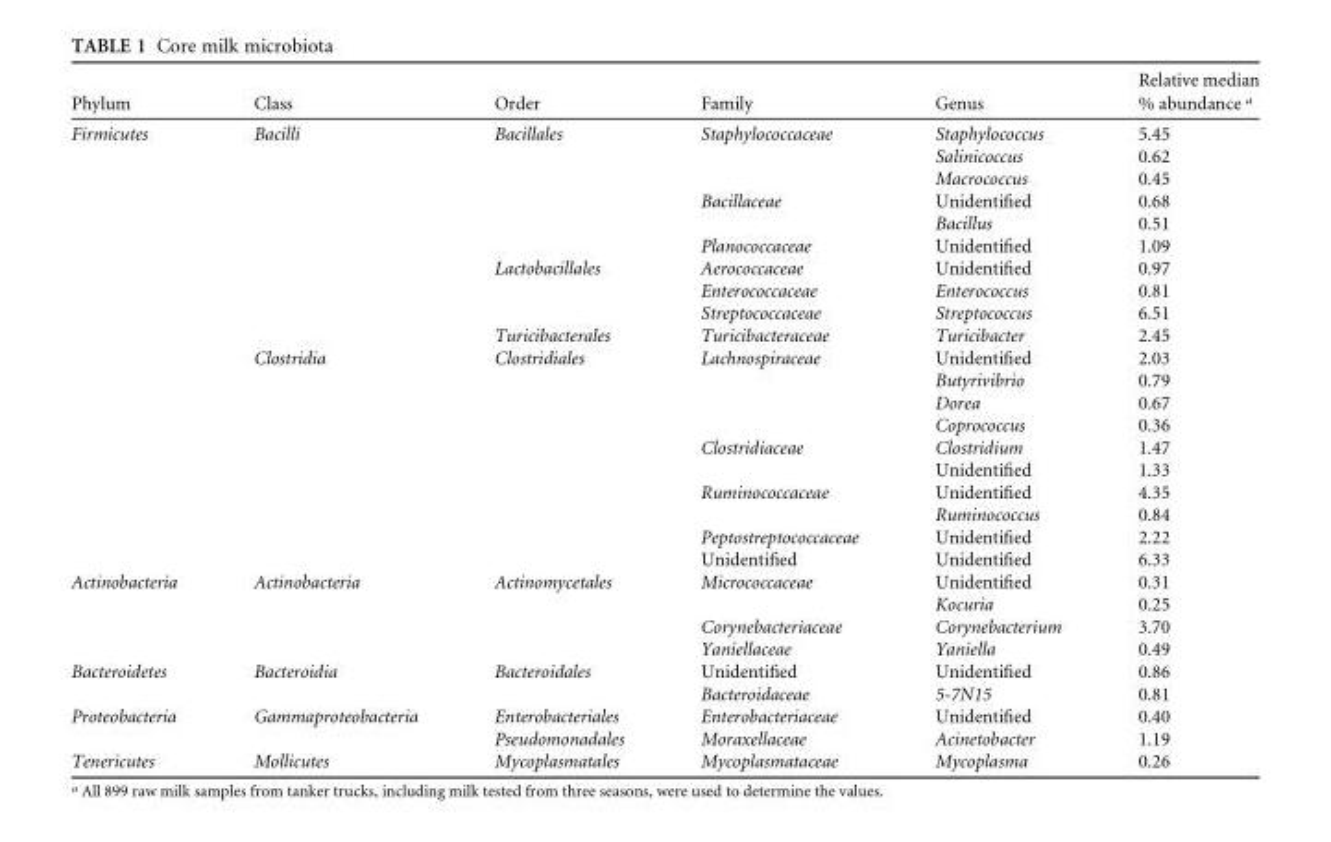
<table><thead><tr><td>Phylum</td><td>Class</td><td>Order</td><td>Family</td><td>Genus</td><td>Relative median % abundance <sup>a</sup></td></tr></thead><tbody><tr><td rowspan="20">Firmicutes</td><td rowspan="10">Bacilli</td><td rowspan="6">Bacillales</td><td rowspan="3">Staphylococcaceae</td><td>Staphylococcus</td><td>5.45</td></tr><tr><td>Salinicoccus</td><td>0.62</td></tr><tr><td>Macrococcus</td><td>0.45</td></tr><tr><td rowspan="2">Bacillaceae</td><td>Unidentified</td><td>0.68</td></tr><tr><td>Bacillus</td><td>0.51</td></tr><tr><td>Planococcaceae</td><td>Unidentified</td><td>1.09</td></tr><tr><td rowspan="3">Lactobacillales</td><td>Aerococcaceae</td><td>Unidentified</td><td>0.97</td></tr><tr><td>Enterococcaceae</td><td>Enterococcus</td><td>0.81</td></tr><tr><td>Streptococcaceae</td><td>Streptococcus</td><td>6.51</td></tr><tr><td>Turicibacterales</td><td>Turicibacteraceae</td><td>Turicibacter</td><td>2.45</td></tr><tr><td rowspan="10">Clostridia</td><td rowspan="10">Clostridiales</td><td rowspan="4">Lachnospiraceae</td><td>Unidentified</td><td>2.03</td></tr><tr><td>Butyrivibrio</td><td>0.79</td></tr><tr><td>Dorea</td><td>0.67</td></tr><tr><td>Coprococcus</td><td>0.36</td></tr><tr><td rowspan="2">Clostridiaceae</td><td>Clostridium</td><td>1.47</td></tr><tr><td>Unidentified</td><td>1.33</td></tr><tr><td rowspan="2">Ruminococcaceae</td><td>Unidentified</td><td>4.35</td></tr><tr><td>Ruminococcus</td><td>0.84</td></tr><tr><td>Peptostreptococcaceae</td><td>Unidentified</td><td>2.22</td></tr><tr><td>Unidentified</td><td>Unidentified</td><td>6.33</td></tr><tr><td rowspan="4">Actinobacteria</td><td rowspan="4">Actinobacteria</td><td rowspan="4">Actinomycetales</td><td rowspan="2">Micrococcaceae</td><td>Unidentified</td><td>0.31</td></tr><tr><td>Kocuria</td><td>0.25</td></tr><tr><td>Corynebacteriaceae</td><td>Corynebacterium</td><td>3.70</td></tr><tr><td>Yaniellaceae</td><td>Yaniella</td><td>0.49</td></tr><tr><td rowspan="2">Bacteroidetes</td><td rowspan="2">Bacteroidia</td><td rowspan="2">Bacteroidales</td><td>Unidentified</td><td>Unidentified</td><td>0.86</td></tr><tr><td>Bacteroidaceae</td><td>5-7N15</td><td>0.81</td></tr><tr><td rowspan="2">Proteobacteria</td><td rowspan="2">Gammaproteobacteria</td><td>Enterobacteriales</td><td>Enterobacteriaceae</td><td>Unidentified</td><td>0.40</td></tr><tr><td>Pseudomonadales</td><td>Moraxellaceae</td><td>Acinetobacter</td><td>1.19</td></tr><tr><td>Tenericutes</td><td>Mollicutes</td><td>Mycoplasmatales</td><td>Mycoplasmataceae</td><td>Mycoplasma</td><td>0.26</td></tr></tbody></table>